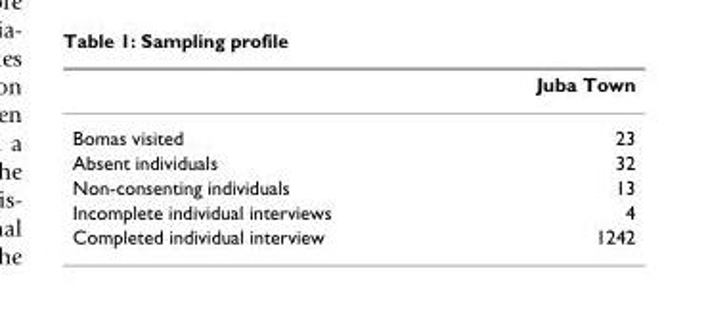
<table><thead><tr><td></td><td>Juba Town</td></tr></thead><tbody><tr><td>Bomas visited</td><td>23</td></tr><tr><td>Absent individuals</td><td>32</td></tr><tr><td>Non-consenting individuals</td><td>13</td></tr><tr><td>Incomplete individual interviews</td><td>4</td></tr><tr><td>Completed individual interview</td><td>1242</td></tr></tbody></table>